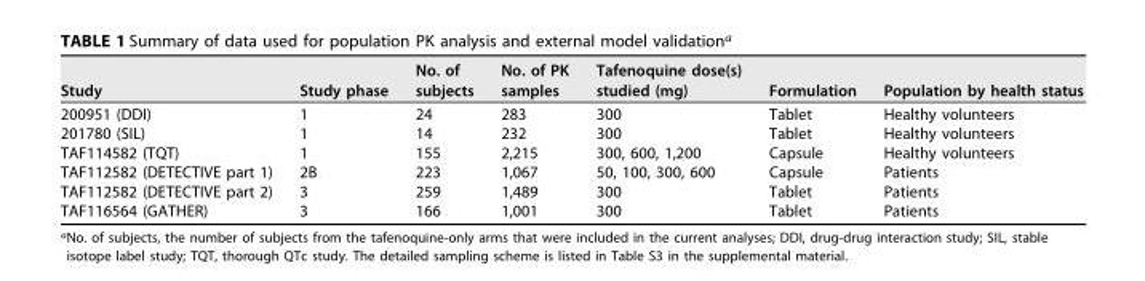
<table><thead><tr><td>Study</td><td>Study phase</td><td>No. of subjects</td><td>No. of PK samples</td><td>Tafenoquine dose(s) studied (mg)</td><td>Formulation</td><td>Population by health status</td></tr></thead><tbody><tr><td>200951 (DDI)</td><td>1</td><td>24</td><td>283</td><td>300</td><td>Tablet</td><td>Healthy volunteers</td></tr><tr><td>201780 (SIL)</td><td>1</td><td>14</td><td>232</td><td>300</td><td>Tablet</td><td>Healthy volunteers</td></tr><tr><td>TAF114582 (TQT)</td><td>1</td><td>155</td><td>2,215</td><td>300, 600, 1,200</td><td>Capsule</td><td>Healthy volunteers</td></tr><tr><td>TAF112582 (DETECTIVE part 1)</td><td>2B</td><td>223</td><td>1,067</td><td>50, 100, 300, 600</td><td>Capsule</td><td>Patients</td></tr><tr><td>TAF112582 (DETECTIVE part 2)</td><td>3</td><td>259</td><td>1,489</td><td>300</td><td>Tablet</td><td>Patients</td></tr><tr><td>TAF116564 (GATHER)</td><td>3</td><td>166</td><td>1,001</td><td>300</td><td>Tablet</td><td>Patients</td></tr></tbody></table>